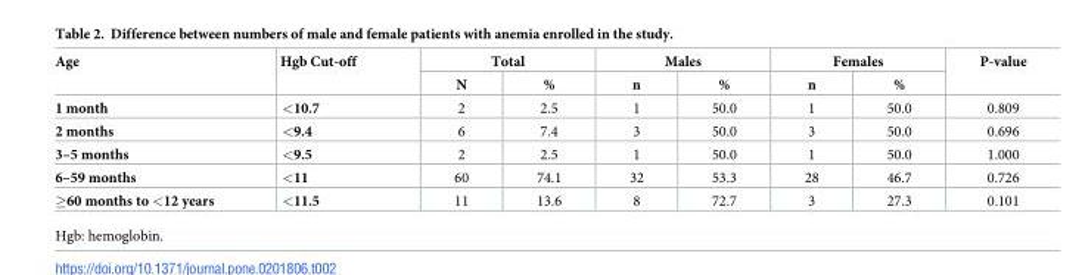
<table><thead><tr><td rowspan="2">Age</td><td rowspan="2">Hgb Cut-off</td><td colspan="2">Total</td><td colspan="2">Males</td><td colspan="2">Females</td><td rowspan="2">P-value</td></tr><tr><td>N</td><td>%</td><td>n</td><td>%</td><td>n</td><td>%</td></tr></thead><tbody><tr><td>1 month</td><td>&lt;10.7</td><td>2</td><td>2.5</td><td>1</td><td>50.0</td><td>1</td><td>50.0</td><td>0.809</td></tr><tr><td>2 months</td><td>&lt;9.4</td><td>6</td><td>7.4</td><td>3</td><td>50.0</td><td>3</td><td>50.0</td><td>0.696</td></tr><tr><td>3–5 months</td><td>&lt;9.5</td><td>2</td><td>2.5</td><td>1</td><td>50.0</td><td>1</td><td>50.0</td><td>1.000</td></tr><tr><td>6–59 months</td><td>&lt;11</td><td>60</td><td>74.1</td><td>32</td><td>53.3</td><td>28</td><td>46.7</td><td>0.726</td></tr><tr><td>≥60 months to &lt;12 years</td><td>&lt;11.5</td><td>11</td><td>13.6</td><td>8</td><td>72.7</td><td>3</td><td>27.3</td><td>0.101</td></tr></tbody></table>